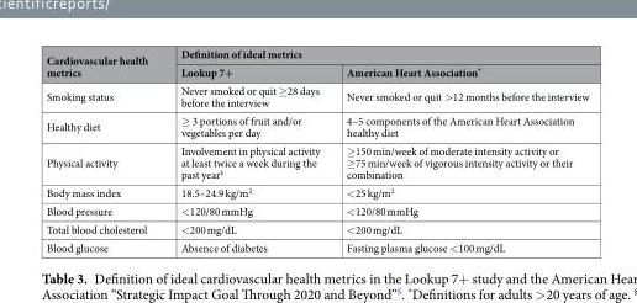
<table><thead><tr><td rowspan="2">Cardiovascular health metrics</td><td colspan="2">Definition of ideal metrics</td></tr><tr><td>Lookup 7+</td><td>American Heart Association*</td></tr></thead><tbody><tr><td>Smoking status</td><td>Never smoked or quit ≥28 days before the interview</td><td>Never smoked or quit &gt;12 months before the interview</td></tr><tr><td>Healthy diet</td><td>≥ 3 portions of fruit and/or vegetables per day</td><td>4–5 components of the American Heart Association healthy diet</td></tr><tr><td>Physical activity</td><td>Involvement in physical activity at least twice a week during the past year<sup>§</sup></td><td>≥150 min/week of moderate intensity activity or ≥75 min/week of vigorous intensity activity or their combination</td></tr><tr><td>Body mass index</td><td>18.5–24.9 kg/m<sup>2</sup></td><td>&lt;25 kg/m<sup>2</sup></td></tr><tr><td>Blood pressure</td><td>&lt;120/80 mmHg</td><td>&lt;120/80 mmHg</td></tr><tr><td>Total blood cholesterol</td><td>&lt;200 mg/dL</td><td>&lt;200 mg/dL</td></tr><tr><td>Blood glucose</td><td>Absence of diabetes</td><td>Fasting plasma glucose &lt;100 mg/dL</td></tr></tbody></table>